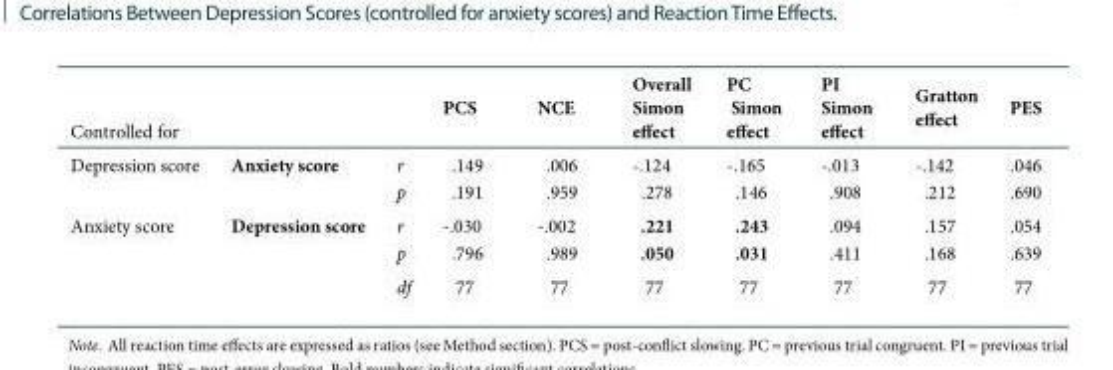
<table><thead><tr><td>Controlled for</td><td></td><td></td><td>pcS</td><td>ncE</td><td>overall Simon effect</td><td>pc Simon effect</td><td>pI Simon effect</td><td>Gratton effect</td><td>pES</td></tr></thead><tbody><tr><td rowspan="2">Depression score</td><td>Anxiety score</td><td>r</td><td>.149</td><td>.006</td><td>-.124</td><td>-.165</td><td>-.013</td><td>-.142</td><td>.046</td></tr><tr><td></td><td>p</td><td>.191</td><td>.959</td><td>.278</td><td>.146</td><td>.908</td><td>.212</td><td>.690</td></tr><tr><td rowspan="3">Anxiety score</td><td>depression score</td><td>r</td><td>-.030</td><td>-.002</td><td>.221</td><td>.243</td><td>.094</td><td>.157</td><td>.054</td></tr><tr><td></td><td>p</td><td>.796</td><td>.989</td><td>.050</td><td>.031</td><td>.411</td><td>.168</td><td>.639</td></tr><tr><td></td><td>df</td><td>77</td><td>77</td><td>77</td><td>77</td><td>77</td><td>77</td><td>77</td></tr></tbody></table>